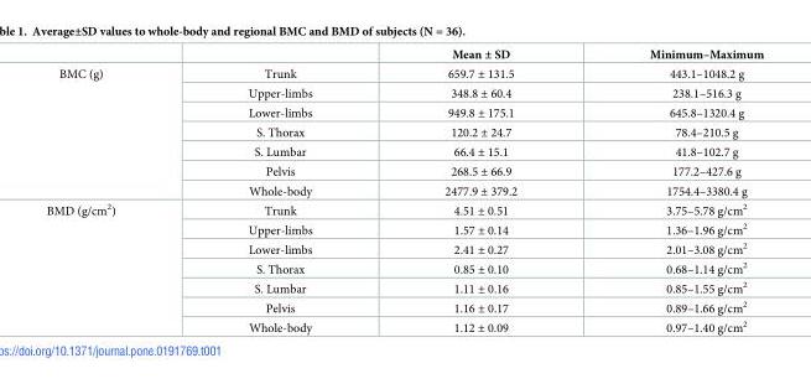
<table><thead><tr><td></td><td></td><td>Mean ± SD</td><td>Minimum–Maximum</td></tr></thead><tbody><tr><td rowspan="7">BMC (g)</td><td>Trunk</td><td>659.7 ± 131.5</td><td>443.1–1048.2 g</td></tr><tr><td>Upper-limbs</td><td>348.8 ± 60.4</td><td>238.1–516.3 g</td></tr><tr><td>Lower-limbs</td><td>949.8 ± 175.1</td><td>645.8–1320.4 g</td></tr><tr><td>S. Thorax</td><td>120.2 ± 24.7</td><td>78.4–210.5 g</td></tr><tr><td>S. Lumbar</td><td>66.4 ± 15.1</td><td>41.8–102.7 g</td></tr><tr><td>Pelvis</td><td>268.5 ± 66.9</td><td>177.2–427.6 g</td></tr><tr><td>Whole-body</td><td>2477.9 ± 379.2</td><td>1754.4–3380.4 g</td></tr><tr><td rowspan="7">BMD (g/cm<sup>2</sup>)</td><td>Trunk</td><td>4.51 ± 0.51</td><td>3.75–5.78 g/cm<sup>2</sup></td></tr><tr><td>Upper-limbs</td><td>1.57 ± 0.14</td><td>1.36–1.96 g/cm<sup>2</sup></td></tr><tr><td>Lower-limbs</td><td>2.41 ± 0.27</td><td>2.01–3.08 g/cm<sup>2</sup></td></tr><tr><td>S. Thorax</td><td>0.85 ± 0.10</td><td>0.68–1.14 g/cm<sup>2</sup></td></tr><tr><td>S. Lumbar</td><td>1.11 ± 0.16</td><td>0.85–1.55 g/cm<sup>2</sup></td></tr><tr><td>Pelvis</td><td>1.16 ± 0.17</td><td>0.89–1.66 g/cm<sup>2</sup></td></tr><tr><td>Whole-body</td><td>1.12 ± 0.09</td><td>0.97–1.40 g/cm<sup>2</sup></td></tr></tbody></table>